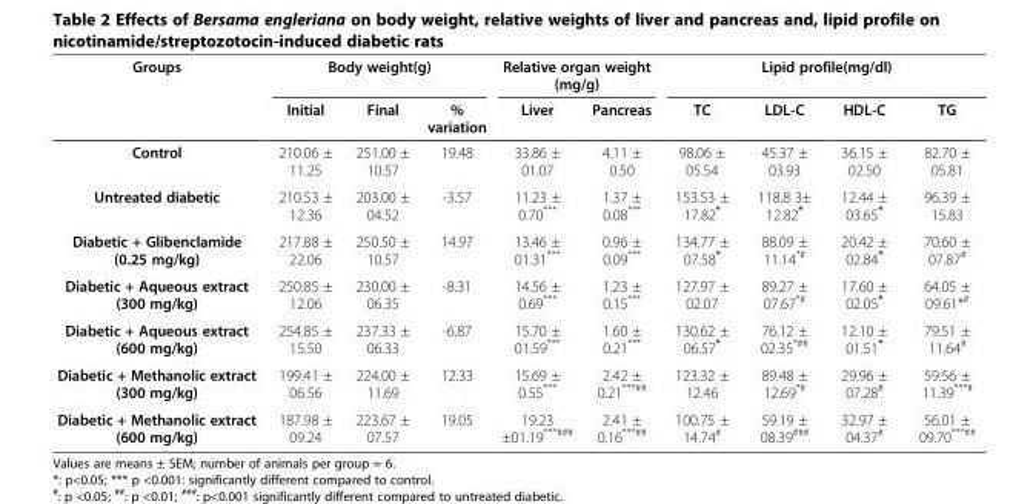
<table><thead><tr><td rowspan="2">Groups</td><td colspan="3">Body weight(g)</td><td colspan="2">Relative organ weight (mg/g)</td><td colspan="4">Lipid profile(mg/dl)</td></tr><tr><td>Initial</td><td>Final</td><td>% variation</td><td>Liver</td><td>Pancreas</td><td>TC</td><td>LDL-C</td><td>HDL-C</td><td>TG</td></tr></thead><tbody><tr><td>Control</td><td>210.06 ± 11.25</td><td>251.00 ± 10.57</td><td>19.48</td><td>33.86 ± 01.07</td><td>4.11 ± 0.50</td><td>98.06 ± 05.54</td><td>45.37 ± 03.93</td><td>36.15 ± 02.50</td><td>82.70 ± 05.81</td></tr><tr><td>Untreated diabetic</td><td>210.53 ± 12.36</td><td>203.00 ± 04.52</td><td>-3.57</td><td>11.23 ± 0.70***</td><td>1.37 ± 0.08***</td><td>153.53 ± 17.82*</td><td>118.8 3± 12.82*</td><td>12.44 ± 03.65*</td><td>96.39 ± 15.83</td></tr><tr><td>Diabetic + Glibenclamide (0.25 mg/kg)</td><td>217.88 ± 22.06</td><td>250.50 ± 10.57</td><td>14.97</td><td>13.46 ± 01.31***</td><td>0.96 ± 0.09***</td><td>134.77 ± 07.58*</td><td>88.09 ± 11.14<sup>*#</sup></td><td>20.42 ± 02.84*</td><td>70.60 ± 07.87<sup>#</sup></td></tr><tr><td>Diabetic + Aqueous extract (300 mg/kg)</td><td>250.85 ± 12.06</td><td>230.00 ± 06.35</td><td>-8.31</td><td>14.56 ± 0.69***</td><td>1.23 ± 0.15***</td><td>127.97 ± 02.07</td><td>89.27 ± 07.67<sup>*#</sup></td><td>17.60 ± 02.05*</td><td>64.05 ± 09.61*<sup>#</sup></td></tr><tr><td>Diabetic + Aqueous extract (600 mg/kg)</td><td>254.85 ± 15.50</td><td>237.33 ± 06.33</td><td>-6.87</td><td>15.70 ± 01.59***</td><td>1.60 ± 0.21***</td><td>130.62 ± 06.57*</td><td>76.12 ± 02.35<sup>*##</sup></td><td>12.10 ± 01.51*</td><td>79.51 ± 11.64<sup>#</sup></td></tr><tr><td>Diabetic + Methanolic extract (300 mg/kg)</td><td>199.41 ± 06.56</td><td>224.00 ± 11.69</td><td>12.33</td><td>15.69 ± 0.55***</td><td>2.42 ± 0.21<sup>***##</sup></td><td>123.32 ± 12.46</td><td>89.48 ± 12.69<sup>*#</sup></td><td>29.96 ± 07.28<sup>#</sup></td><td>59.56 ± 11.39<sup>***#</sup></td></tr><tr><td>Diabetic + Methanolic extract (600 mg/kg)</td><td>187.98 ± 09.24</td><td>223.67 ± 07.57</td><td>19.05</td><td>19.23 ±01.19<sup>***###</sup></td><td>2.41 ± 0.16<sup>***##</sup></td><td>100.75 ± 14.74<sup>#</sup></td><td>59.19 ± 08.39<sup>###</sup></td><td>32.97 ± 04.37<sup>#</sup></td><td>56.01 ± 09.70<sup>***##</sup></td></tr></tbody></table>